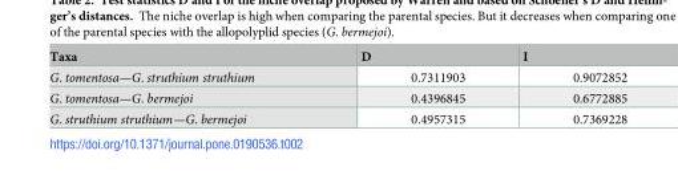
<table><thead><tr><td>Taxa</td><td>D</td><td>I</td></tr></thead><tbody><tr><td>G. tomentosa—G. struthium struthium</td><td>0.7311903</td><td>0.9072852</td></tr><tr><td>G. tomentosa—G. bermejoi</td><td>0.4396845</td><td>0.6772885</td></tr><tr><td>G. struthium struthium—G. bermejoi</td><td>0.4957315</td><td>0.7369228</td></tr></tbody></table>